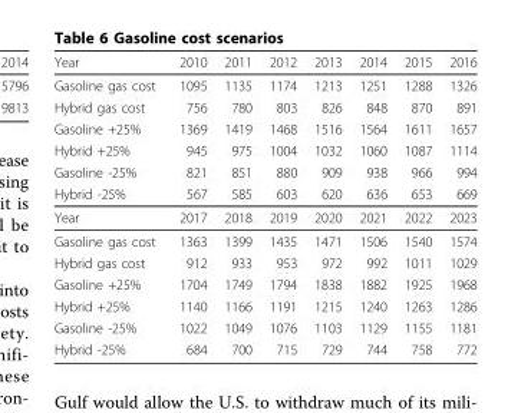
<table><thead><tr><td>Year</td><td>2010</td><td>2011</td><td>2012</td><td>2013</td><td>2014</td><td>2015</td><td>2016</td></tr></thead><tbody><tr><td>Gasoline gas cost</td><td>1095</td><td>1135</td><td>1174</td><td>1213</td><td>1251</td><td>1288</td><td>1326</td></tr><tr><td>Hybrid gas cost</td><td>756</td><td>780</td><td>803</td><td>826</td><td>848</td><td>870</td><td>891</td></tr><tr><td>Gasoline +25%</td><td>1369</td><td>1419</td><td>1468</td><td>1516</td><td>1564</td><td>1611</td><td>1657</td></tr><tr><td>Hybrid +25%</td><td>945</td><td>975</td><td>1004</td><td>1032</td><td>1060</td><td>1087</td><td>1114</td></tr><tr><td>Gasoline -25%</td><td>821</td><td>851</td><td>880</td><td>909</td><td>938</td><td>966</td><td>994</td></tr><tr><td>Hybrid -25%</td><td>567</td><td>585</td><td>603</td><td>620</td><td>636</td><td>653</td><td>669</td></tr><tr><td>Year</td><td>2017</td><td>2018</td><td>2019</td><td>2020</td><td>2021</td><td>2022</td><td>2023</td></tr><tr><td>Gasoline gas cost</td><td>1363</td><td>1399</td><td>1435</td><td>1471</td><td>1506</td><td>1540</td><td>1574</td></tr><tr><td>Hybrid gas cost</td><td>912</td><td>933</td><td>953</td><td>972</td><td>992</td><td>1011</td><td>1029</td></tr><tr><td>Gasoline +25%</td><td>1704</td><td>1749</td><td>1794</td><td>1838</td><td>1882</td><td>1925</td><td>1968</td></tr><tr><td>Hybrid +25%</td><td>1140</td><td>1166</td><td>1191</td><td>1215</td><td>1240</td><td>1263</td><td>1286</td></tr><tr><td>Gasoline -25%</td><td>1022</td><td>1049</td><td>1076</td><td>1103</td><td>1129</td><td>1155</td><td>1181</td></tr><tr><td>Hybrid -25%</td><td>684</td><td>700</td><td>715</td><td>729</td><td>744</td><td>758</td><td>772</td></tr></tbody></table>